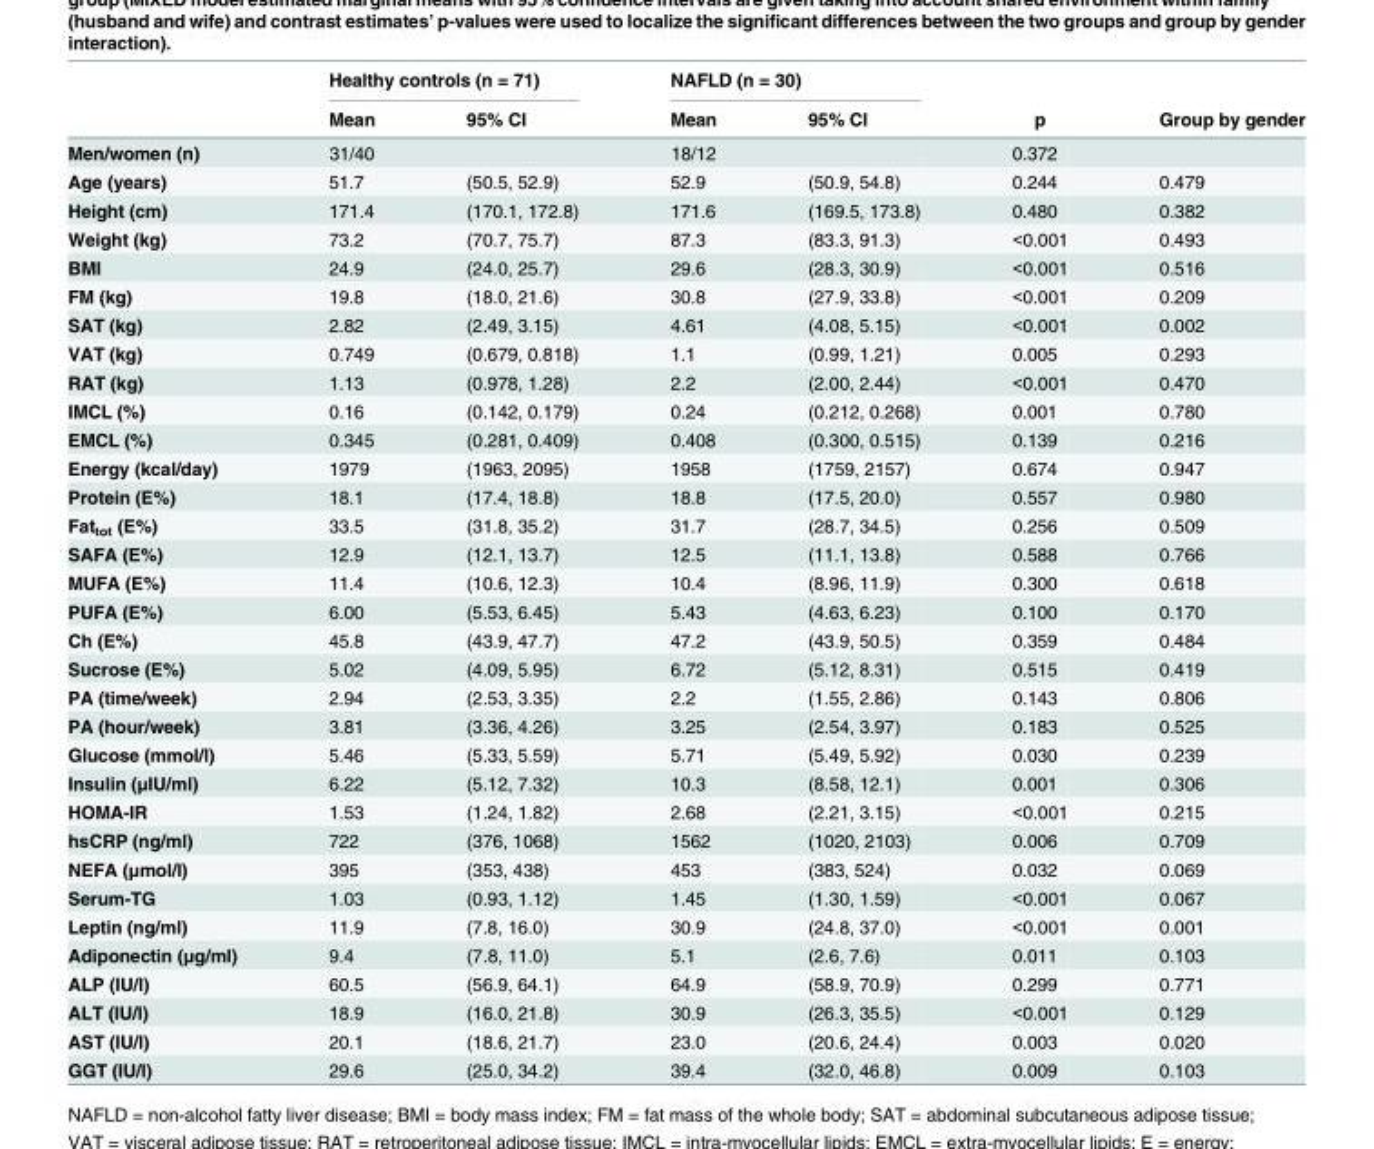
<table><thead><tr><td rowspan="2"></td><td colspan="2">Healthy controls (n = 71)</td><td colspan="2">NAFLD (n = 30)</td><td rowspan="2">p</td><td rowspan="2">Group by gender</td></tr><tr><td>Mean</td><td>95% CI</td><td>Mean</td><td>95% CI</td></tr></thead><tbody><tr><td>Men/women (n)</td><td>31/40</td><td></td><td>18/12</td><td></td><td>0.372</td><td></td></tr><tr><td>Age (years)</td><td>51.7</td><td>(50.5, 52.9)</td><td>52.9</td><td>(50.9, 54.8)</td><td>0.244</td><td>0.479</td></tr><tr><td>Height (cm)</td><td>171.4</td><td>(170.1, 172.8)</td><td>171.6</td><td>(169.5, 173.8)</td><td>0.480</td><td>0.382</td></tr><tr><td>Weight (kg)</td><td>73.2</td><td>(70.7, 75.7)</td><td>87.3</td><td>(83.3, 91.3)</td><td>&lt;0.001</td><td>0.493</td></tr><tr><td>BMI</td><td>24.9</td><td>(24.0, 25.7)</td><td>29.6</td><td>(28.3, 30.9)</td><td>&lt;0.001</td><td>0.516</td></tr><tr><td>FM (kg)</td><td>19.8</td><td>(18.0, 21.6)</td><td>30.8</td><td>(27.9, 33.8)</td><td>&lt;0.001</td><td>0.209</td></tr><tr><td>SAT (kg)</td><td>2.82</td><td>(2.49, 3.15)</td><td>4.61</td><td>(4.08, 5.15)</td><td>&lt;0.001</td><td>0.002</td></tr><tr><td>VAT (kg)</td><td>0.749</td><td>(0.679, 0.818)</td><td>1.1</td><td>(0.99, 1.21)</td><td>0.005</td><td>0.293</td></tr><tr><td>RAT (kg)</td><td>1.13</td><td>(0.978, 1.28)</td><td>2.2</td><td>(2.00, 2.44)</td><td>&lt;0.001</td><td>0.470</td></tr><tr><td>IMCL (%)</td><td>0.16</td><td>(0.142, 0.179)</td><td>0.24</td><td>(0.212, 0.268)</td><td>0.001</td><td>0.780</td></tr><tr><td>EMCL (%)</td><td>0.345</td><td>(0.281, 0.409)</td><td>0.408</td><td>(0.300, 0.515)</td><td>0.139</td><td>0.216</td></tr><tr><td>Energy (kcal/day)</td><td>1979</td><td>(1963, 2095)</td><td>1958</td><td>(1759, 2157)</td><td>0.674</td><td>0.947</td></tr><tr><td>Protein (E%)</td><td>18.1</td><td>(17.4, 18.8)</td><td>18.8</td><td>(17.5, 20.0)</td><td>0.557</td><td>0.980</td></tr><tr><td>Fat<sub>tot</sub> (E%)</td><td>33.5</td><td>(31.8, 35.2)</td><td>31.7</td><td>(28.7, 34.5)</td><td>0.256</td><td>0.509</td></tr><tr><td>SAFA (E%)</td><td>12.9</td><td>(12.1, 13.7)</td><td>12.5</td><td>(11.1, 13.8)</td><td>0.588</td><td>0.766</td></tr><tr><td>MUFA (E%)</td><td>11.4</td><td>(10.6, 12.3)</td><td>10.4</td><td>(8.96, 11.9)</td><td>0.300</td><td>0.618</td></tr><tr><td>PUFA (E%)</td><td>6.00</td><td>(5.53, 6.45)</td><td>5.43</td><td>(4.63, 6.23)</td><td>0.100</td><td>0.170</td></tr><tr><td>Ch (E%)</td><td>45.8</td><td>(43.9, 47.7)</td><td>47.2</td><td>(43.9, 50.5)</td><td>0.359</td><td>0.484</td></tr><tr><td>Sucrose (E%)</td><td>5.02</td><td>(4.09, 5.95)</td><td>6.72</td><td>(5.12, 8.31)</td><td>0.515</td><td>0.419</td></tr><tr><td>PA (time/week)</td><td>2.94</td><td>(2.53, 3.35)</td><td>2.2</td><td>(1.55, 2.86)</td><td>0.143</td><td>0.806</td></tr><tr><td>PA (hour/week)</td><td>3.81</td><td>(3.36, 4.26)</td><td>3.25</td><td>(2.54, 3.97)</td><td>0.183</td><td>0.525</td></tr><tr><td>Glucose (mmol/l)</td><td>5.46</td><td>(5.33, 5.59)</td><td>5.71</td><td>(5.49, 5.92)</td><td>0.030</td><td>0.239</td></tr><tr><td>Insulin (μIU/ml)</td><td>6.22</td><td>(5.12, 7.32)</td><td>10.3</td><td>(8.58, 12.1)</td><td>0.001</td><td>0.306</td></tr><tr><td>HOMA-IR</td><td>1.53</td><td>(1.24, 1.82)</td><td>2.68</td><td>(2.21, 3.15)</td><td>&lt;0.001</td><td>0.215</td></tr><tr><td>hsCRP (ng/ml)</td><td>722</td><td>(376, 1068)</td><td>1562</td><td>(1020, 2103)</td><td>0.006</td><td>0.709</td></tr><tr><td>NEFA (μmol/l)</td><td>395</td><td>(353, 438)</td><td>453</td><td>(383, 524)</td><td>0.032</td><td>0.069</td></tr><tr><td>Serum-TG</td><td>1.03</td><td>(0.93, 1.12)</td><td>1.45</td><td>(1.30, 1.59)</td><td>&lt;0.001</td><td>0.067</td></tr><tr><td>Leptin (ng/ml)</td><td>11.9</td><td>(7.8, 16.0)</td><td>30.9</td><td>(24.8, 37.0)</td><td>&lt;0.001</td><td>0.001</td></tr><tr><td>Adiponectin (μg/ml)</td><td>9.4</td><td>(7.8, 11.0)</td><td>5.1</td><td>(2.6, 7.6)</td><td>0.011</td><td>0.103</td></tr><tr><td>ALP (IU/l)</td><td>60.5</td><td>(56.9, 64.1)</td><td>64.9</td><td>(58.9, 70.9)</td><td>0.299</td><td>0.771</td></tr><tr><td>ALT (IU/l)</td><td>18.9</td><td>(16.0, 21.8)</td><td>30.9</td><td>(26.3, 35.5)</td><td>&lt;0.001</td><td>0.129</td></tr><tr><td>AST (IU/l)</td><td>20.1</td><td>(18.6, 21.7)</td><td>23.0</td><td>(20.6, 24.4)</td><td>0.003</td><td>0.020</td></tr><tr><td>GGT (IU/l)</td><td>29.6</td><td>(25.0, 34.2)</td><td>39.4</td><td>(32.0, 46.8)</td><td>0.009</td><td>0.103</td></tr></tbody></table>